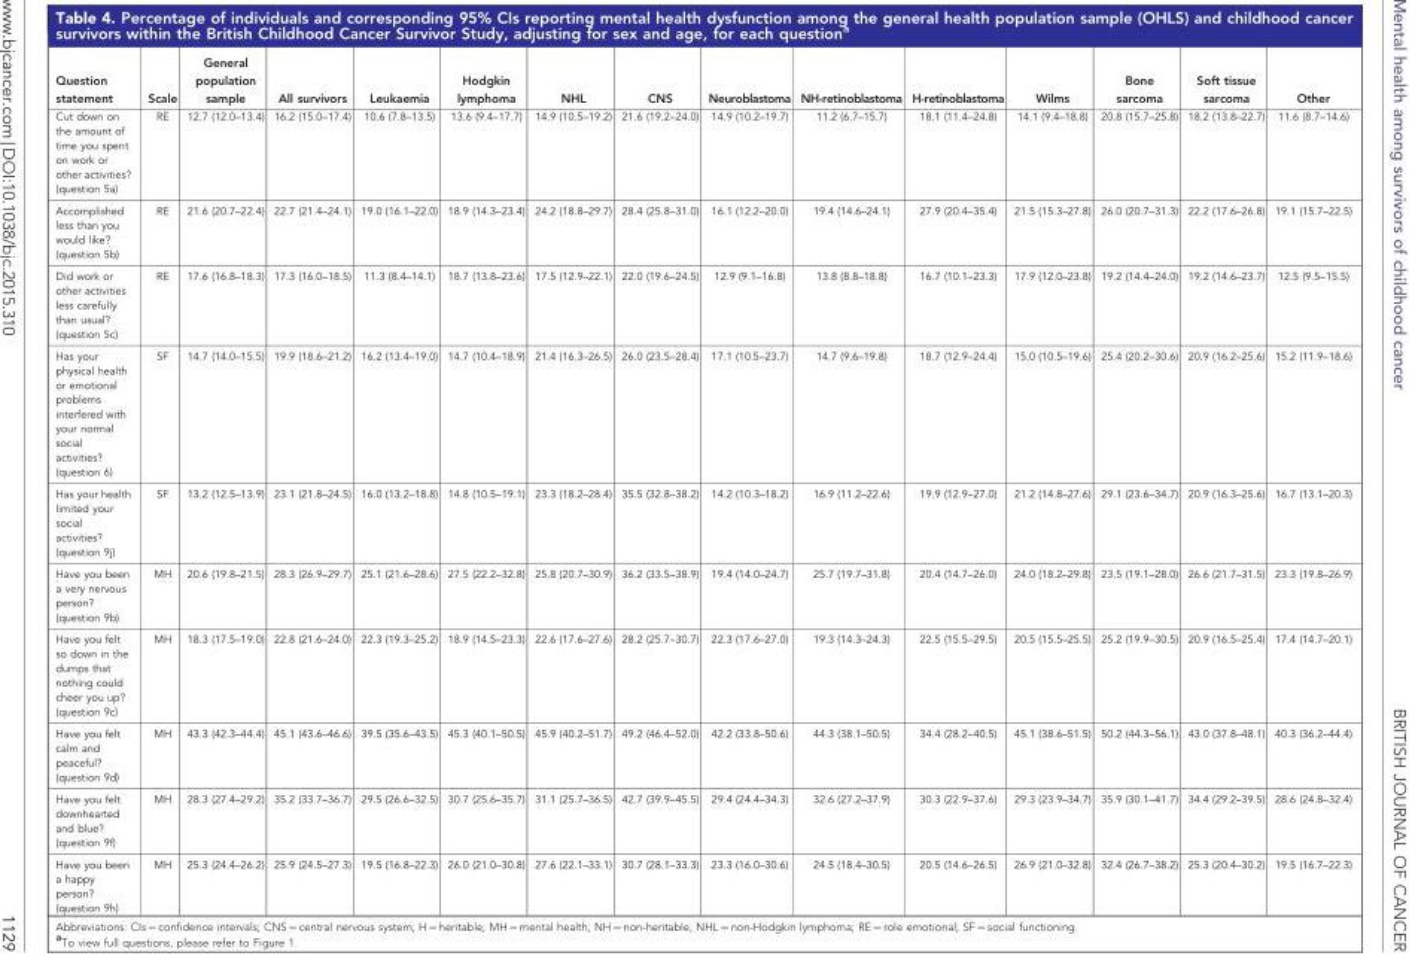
<table><thead><tr><td>Question statement</td><td>Scale</td><td>General population sample</td><td>All survivors</td><td>Leukaemia</td><td>Hodgkin lymphoma</td><td>NHL</td><td>CNS</td><td>Neuroblastoma</td><td>NH-retinoblastoma</td><td>H-retinoblastoma</td><td>Wilms</td><td>Bone sarcoma</td><td>Soft tissue sarcoma</td><td>Other</td></tr></thead><tbody><tr><td>Cut down on the amount of time you spent on work or other activities? (question 5a)</td><td>RE</td><td>12.7 (12.0–13.4)</td><td>16.2 (15.0–17.4)</td><td>10.6 (7.8–13.5)</td><td>13.6 (9.4–17.7)</td><td>14.9 (10.5–19.2)</td><td>21.6 (19.2–24.0)</td><td>14.9 (10.2–19.7)</td><td>11.2 (6.7–15.7)</td><td>18.1 (11.4–24.8)</td><td>14.1 (9.4–18.8)</td><td>20.8 (15.7–25.8)</td><td>18.2 (13.8–22.7)</td><td>11.6 (8.7–14.6)</td></tr><tr><td>Accomplished less than you would like? (question 5b)</td><td>RE</td><td>21.6 (20.7–22.4)</td><td>22.7 (21.4–24.1)</td><td>19.0 (16.1–22.0)</td><td>18.9 (14.3–23.4)</td><td>24.2 (18.8–29.7)</td><td>28.4 (25.8–31.0)</td><td>16.1 (12.2–20.0)</td><td>19.4 (14.6–24.1)</td><td>27.9 (20.4–35.4)</td><td>21.5 (15.3–27.8)</td><td>26.0 (20.7–31.3)</td><td>22.2 (17.6–26.8)</td><td>19.1 (15.7–22.5)</td></tr><tr><td>Did work or other activities less carefully than usual? (question 5c)</td><td>RE</td><td>17.6 (16.8–18.3)</td><td>17.3 (16.0–18.5)</td><td>11.3 (8.4–14.1)</td><td>18.7 (13.8–23.6)</td><td>17.5 (12.9–22.1)</td><td>22.0 (19.6–24.5)</td><td>12.9 (9.1–16.8)</td><td>13.8 (8.8–18.8)</td><td>16.7 (10.1–23.3)</td><td>17.9 (12.0–23.8)</td><td>19.2 (14.4–24.0)</td><td>19.2 (14.6–23.7)</td><td>12.5 (9.5–15.5)</td></tr><tr><td>Has your physical health or emotional problems interfered with your normal social activities? (question 6)</td><td>SF</td><td>14.7 (14.0–15.5)</td><td>19.9 (18.6–21.2)</td><td>16.2 (13.4–19.0)</td><td>14.7 (10.4–18.9)</td><td>21.4 (16.3–26.5)</td><td>26.0 (23.5–28.4)</td><td>17.1 (10.5–23.7)</td><td>14.7 (9.6–19.8)</td><td>18.7 (12.9–24.4)</td><td>15.0 (10.5–19.6)</td><td>25.4 (20.2–30.6)</td><td>20.9 (16.2–25.6)</td><td>15.2 (11.9–18.6)</td></tr><tr><td>Has your health limited your social activities? (question 9j)</td><td>SF</td><td>13.2 (12.5–13.9)</td><td>23.1 (21.8–24.5)</td><td>16.0 (13.2–18.8)</td><td>14.8 (10.5–19.1)</td><td>23.3 (18.2–28.4)</td><td>35.5 (32.8–38.2)</td><td>14.2 (10.3–18.2)</td><td>16.9 (11.2–22.6)</td><td>19.9 (12.9–27.0)</td><td>21.2 (14.8–27.6)</td><td>29.1 (23.6–34.7)</td><td>20.9 (16.3–25.6)</td><td>16.7 (13.1–20.3)</td></tr><tr><td>Have you been a very nervous person? (question 9b)</td><td>MH</td><td>20.6 (19.8–21.5)</td><td>28.3 (26.9–29.7)</td><td>25.1 (21.6–28.6)</td><td>27.5 (22.2–32.8)</td><td>25.8 (20.7–30.9)</td><td>36.2 (33.5–38.9)</td><td>19.4 (14.0–24.7)</td><td>25.7 (19.7–31.8)</td><td>20.4 (14.7–26.0)</td><td>24.0 (18.2–29.8)</td><td>23.5 (19.1–28.0)</td><td>26.6 (21.7–31.5)</td><td>23.3 (19.8–26.9)</td></tr><tr><td>Have you felt so down in the dumps that nothing could cheer you up? (question 9c)</td><td>MH</td><td>18.3 (17.5–19.0)</td><td>22.8 (21.6–24.0)</td><td>22.3 (19.3–25.2)</td><td>18.9 (14.5–23.3)</td><td>22.6 (17.6–27.6)</td><td>28.2 (25.7–30.7)</td><td>22.3 (17.6–27.0)</td><td>19.3 (14.3–24.3)</td><td>22.5 (15.5–29.5)</td><td>20.5 (15.5–25.5)</td><td>25.2 (19.9–30.5)</td><td>20.9 (16.5–25.4)</td><td>17.4 (14.7–20.1)</td></tr><tr><td>Have you felt calm and peaceful? (question 9d)</td><td>MH</td><td>43.3 (42.3–44.4)</td><td>45.1 (43.6–46.6)</td><td>39.5 (35.6–43.5)</td><td>45.3 (40.1–50.5)</td><td>45.9 (40.2–51.7)</td><td>49.2 (46.4–52.0)</td><td>42.2 (33.8–50.6)</td><td>44.3 (38.1–50.5)</td><td>34.4 (28.2–40.5)</td><td>45.1 (38.6–51.5)</td><td>50.2 (44.3–56.1)</td><td>43.0 (37.8–48.1)</td><td>40.3 (36.2–44.4)</td></tr><tr><td>Have you felt downhearted and blue? (question 9f)</td><td>MH</td><td>28.3 (27.4–29.2)</td><td>35.2 (33.7–36.7)</td><td>29.5 (26.6–32.5)</td><td>30.7 (25.6–35.7)</td><td>31.1 (25.7–36.5)</td><td>42.7 (39.9–45.5)</td><td>29.4 (24.4–34.3)</td><td>32.6 (27.2–37.9)</td><td>30.3 (22.9–37.6)</td><td>29.3 (23.9–34.7)</td><td>35.9 (30.1–41.7)</td><td>34.4 (29.2–39.5)</td><td>28.6 (24.8–32.4)</td></tr><tr><td>Have you been a happy person? (question 9h)</td><td>MH</td><td>25.3 (24.4–26.2)</td><td>25.9 (24.5–27.3)</td><td>19.5 (16.8–22.3)</td><td>26.0 (21.0–30.8)</td><td>27.6 (22.1–33.1)</td><td>30.7 (28.1–33.3)</td><td>23.3 (16.0–30.6)</td><td>24.5 (18.4–30.5)</td><td>20.5 (14.6–26.5)</td><td>26.9 (21.0–32.8)</td><td>32.4 (26.7–38.2)</td><td>25.3 (20.4–30.2)</td><td>19.5 (16.7–22.3)</td></tr></tbody></table>